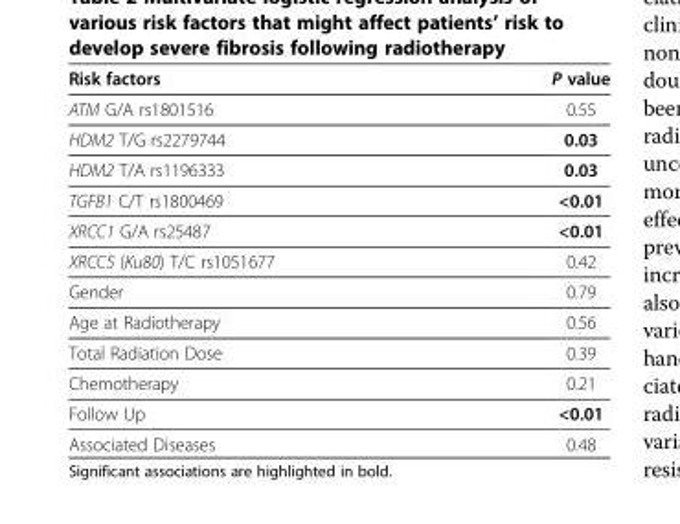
<table><thead><tr><td>Risk factors</td><td>P value</td></tr></thead><tbody><tr><td>ATM G/A rs1801516</td><td>0.55</td></tr><tr><td>HDM2 T/G rs2279744</td><td>0.03</td></tr><tr><td>HDM2 T/A rs1196333</td><td>0.03</td></tr><tr><td>TGFB1 C/T rs1800469</td><td>&lt;0.01</td></tr><tr><td>XRCC1 G/A rs25487</td><td>&lt;0.01</td></tr><tr><td>XRCC5 (Ku80) T/C rs1051677</td><td>0.42</td></tr><tr><td>Gender</td><td>0.79</td></tr><tr><td>Age at Radiotherapy</td><td>0.56</td></tr><tr><td>Total Radiation Dose</td><td>0.39</td></tr><tr><td>Chemotherapy</td><td>0.21</td></tr><tr><td>Follow Up</td><td>&lt;0.01</td></tr><tr><td>Associated Diseases</td><td>0.48</td></tr></tbody></table>